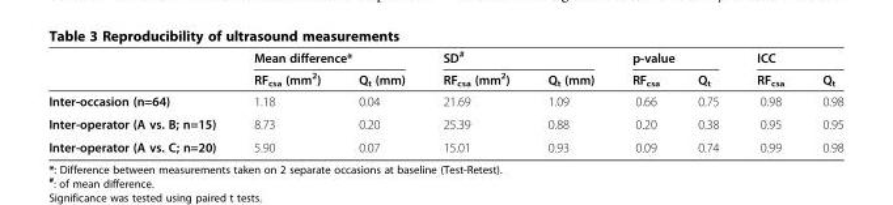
<table><thead><tr><td rowspan="2"></td><td colspan="2">Mean difference*</td><td colspan="2">SD<sup>#</sup></td><td colspan="2">p-value</td><td colspan="2">ICC</td></tr><tr><td>RF<sub>csa</sub> (mm<sup>2</sup>)</td><td>Q<sub>t</sub> (mm)</td><td>RF<sub>csa</sub> (mm<sup>2</sup>)</td><td>Q<sub>t</sub> (mm)</td><td>RF<sub>csa</sub></td><td>Q<sub>t</sub></td><td>RF<sub>csa</sub></td><td>Q<sub>t</sub></td></tr></thead><tbody><tr><td>Inter-occasion (n=64)</td><td>1.18</td><td>0.04</td><td>21.69</td><td>1.09</td><td>0.66</td><td>0.75</td><td>0.98</td><td>0.98</td></tr><tr><td>Inter-operator (A vs. B; n=15)</td><td>8.73</td><td>0.20</td><td>25.39</td><td>0.88</td><td>0.20</td><td>0.38</td><td>0.95</td><td>0.95</td></tr><tr><td>Inter-operator (A vs. C; n=20)</td><td>5.90</td><td>0.07</td><td>15.01</td><td>0.93</td><td>0.09</td><td>0.74</td><td>0.99</td><td>0.98</td></tr></tbody></table>